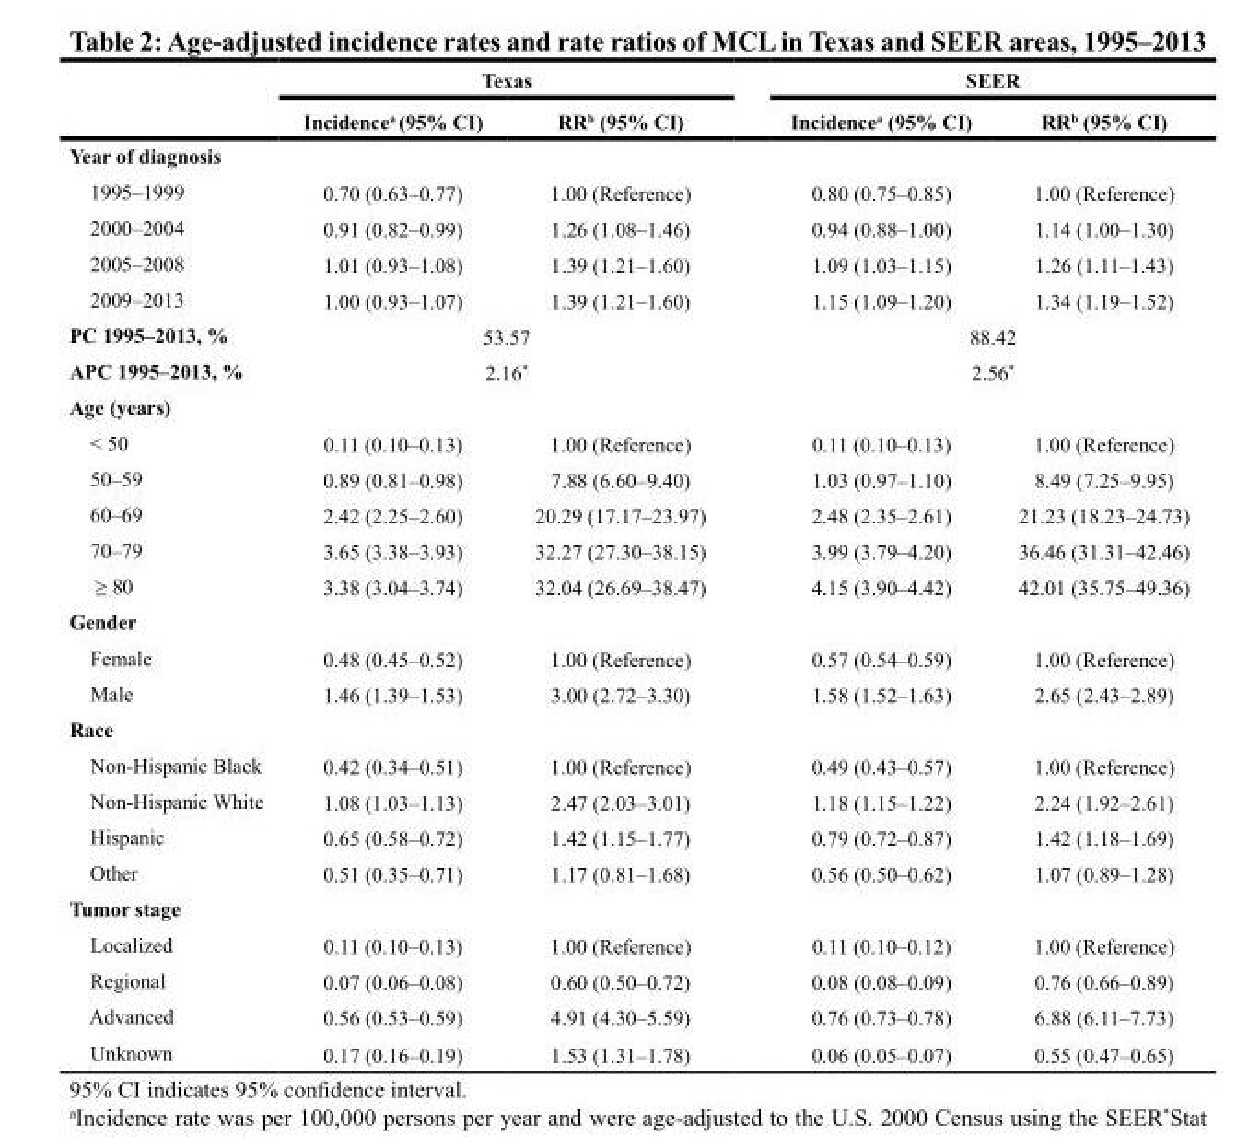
<table><thead><tr><td rowspan="2"></td><td colspan="2">Texas</td><td colspan="2">SEER</td></tr><tr><td>Incidence<sup>a</sup> (95% CI)</td><td>RR<sup>b</sup> (95% CI)</td><td>Incidence<sup>a</sup> (95% CI)</td><td>RR<sup>b</sup> (95% CI)</td></tr></thead><tbody><tr><td colspan="5">Year of diagnosis</td></tr><tr><td>1995–1999</td><td>0.70 (0.63–0.77)</td><td>1.00 (Reference)</td><td>0.80 (0.75–0.85)</td><td>1.00 (Reference)</td></tr><tr><td>2000–2004</td><td>0.91 (0.82–0.99)</td><td>1.26 (1.08–1.46)</td><td>0.94 (0.88–1.00)</td><td>1.14 (1.00–1.30)</td></tr><tr><td>2005–2008</td><td>1.01 (0.93–1.08)</td><td>1.39 (1.21–1.60)</td><td>1.09 (1.03–1.15)</td><td>1.26 (1.11–1.43)</td></tr><tr><td>2009–2013</td><td>1.00 (0.93–1.07)</td><td>1.39 (1.21–1.60)</td><td>1.15 (1.09–1.20)</td><td>1.34 (1.19–1.52)</td></tr><tr><td>PC 1995–2013, %</td><td colspan="2">53.57</td><td colspan="2">88.42</td></tr><tr><td>APC 1995–2013, %</td><td colspan="2">2.16*</td><td colspan="2">2.56*</td></tr><tr><td colspan="5">Age (years)</td></tr><tr><td>&lt; 50</td><td>0.11 (0.10–0.13)</td><td>1.00 (Reference)</td><td>0.11 (0.10–0.13)</td><td>1.00 (Reference)</td></tr><tr><td>50–59</td><td>0.89 (0.81–0.98)</td><td>7.88 (6.60–9.40)</td><td>1.03 (0.97–1.10)</td><td>8.49 (7.25–9.95)</td></tr><tr><td>60–69</td><td>2.42 (2.25–2.60)</td><td>20.29 (17.17–23.97)</td><td>2.48 (2.35–2.61)</td><td>21.23 (18.23–24.73)</td></tr><tr><td>70–79</td><td>3.65 (3.38–3.93)</td><td>32.27 (27.30–38.15)</td><td>3.99 (3.79–4.20)</td><td>36.46 (31.31–42.46)</td></tr><tr><td>≥ 80</td><td>3.38 (3.04–3.74)</td><td>32.04 (26.69–38.47)</td><td>4.15 (3.90–4.42)</td><td>42.01 (35.75–49.36)</td></tr><tr><td colspan="5">Gender</td></tr><tr><td>Female</td><td>0.48 (0.45–0.52)</td><td>1.00 (Reference)</td><td>0.57 (0.54–0.59)</td><td>1.00 (Reference)</td></tr><tr><td>Male</td><td>1.46 (1.39–1.53)</td><td>3.00 (2.72–3.30)</td><td>1.58 (1.52–1.63)</td><td>2.65 (2.43–2.89)</td></tr><tr><td colspan="5">Race</td></tr><tr><td>Non-Hispanic Black</td><td>0.42 (0.34–0.51)</td><td>1.00 (Reference)</td><td>0.49 (0.43–0.57)</td><td>1.00 (Reference)</td></tr><tr><td>Non-Hispanic White</td><td>1.08 (1.03–1.13)</td><td>2.47 (2.03–3.01)</td><td>1.18 (1.15–1.22)</td><td>2.24 (1.92–2.61)</td></tr><tr><td>Hispanic</td><td>0.65 (0.58–0.72)</td><td>1.42 (1.15–1.77)</td><td>0.79 (0.72–0.87)</td><td>1.42 (1.18–1.69)</td></tr><tr><td>Other</td><td>0.51 (0.35–0.71)</td><td>1.17 (0.81–1.68)</td><td>0.56 (0.50–0.62)</td><td>1.07 (0.89–1.28)</td></tr><tr><td colspan="5">Tumor stage</td></tr><tr><td>Localized</td><td>0.11 (0.10–0.13)</td><td>1.00 (Reference)</td><td>0.11 (0.10–0.12)</td><td>1.00 (Reference)</td></tr><tr><td>Regional</td><td>0.07 (0.06–0.08)</td><td>0.60 (0.50–0.72)</td><td>0.08 (0.08–0.09)</td><td>0.76 (0.66–0.89)</td></tr><tr><td>Advanced</td><td>0.56 (0.53–0.59)</td><td>4.91 (4.30–5.59)</td><td>0.76 (0.73–0.78)</td><td>6.88 (6.11–7.73)</td></tr><tr><td>Unknown</td><td>0.17 (0.16–0.19)</td><td>1.53 (1.31–1.78)</td><td>0.06 (0.05–0.07)</td><td>0.55 (0.47–0.65)</td></tr></tbody></table>